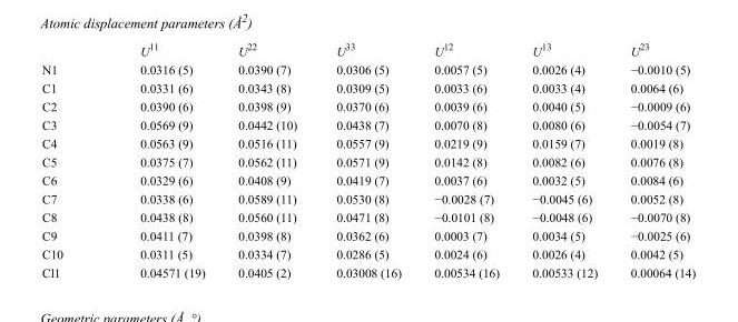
<table><thead><tr><td></td><td>U<sup>11</sup></td><td>U<sup>22</sup></td><td>U<sup>33</sup></td><td>U<sup>12</sup></td><td>U<sup>13</sup></td><td>U<sup>23</sup></td></tr></thead><tbody><tr><td>N1</td><td>0.0316 (5)</td><td>0.0390 (7)</td><td>0.0306 (5)</td><td>0.0057 (5)</td><td>0.0026 (4)</td><td>−0.0010 (5)</td></tr><tr><td>C1</td><td>0.0331 (6)</td><td>0.0343 (8)</td><td>0.0309 (5)</td><td>0.0033 (6)</td><td>0.0033 (4)</td><td>0.0064 (6)</td></tr><tr><td>C2</td><td>0.0390 (6)</td><td>0.0398 (9)</td><td>0.0370 (6)</td><td>0.0039 (6)</td><td>0.0040 (5)</td><td>−0.0009 (6)</td></tr><tr><td>C3</td><td>0.0569 (9)</td><td>0.0442 (10)</td><td>0.0438 (7)</td><td>0.0070 (8)</td><td>0.0080 (6)</td><td>−0.0054 (7)</td></tr><tr><td>C4</td><td>0.0563 (9)</td><td>0.0516 (11)</td><td>0.0557 (9)</td><td>0.0219 (9)</td><td>0.0159 (7)</td><td>0.0019 (8)</td></tr><tr><td>C5</td><td>0.0375 (7)</td><td>0.0562 (11)</td><td>0.0571 (9)</td><td>0.0142 (8)</td><td>0.0082 (6)</td><td>0.0076 (8)</td></tr><tr><td>C6</td><td>0.0329 (6)</td><td>0.0408 (9)</td><td>0.0419 (7)</td><td>0.0037 (6)</td><td>0.0032 (5)</td><td>0.0084 (6)</td></tr><tr><td>C7</td><td>0.0338 (6)</td><td>0.0589 (11)</td><td>0.0530 (8)</td><td>−0.0028 (7)</td><td>−0.0045 (6)</td><td>0.0052 (8)</td></tr><tr><td>C8</td><td>0.0438 (8)</td><td>0.0560 (11)</td><td>0.0471 (8)</td><td>−0.0101 (8)</td><td>−0.0048 (6)</td><td>−0.0070 (8)</td></tr><tr><td>C9</td><td>0.0411 (7)</td><td>0.0398 (8)</td><td>0.0362 (6)</td><td>0.0003 (7)</td><td>0.0034 (5)</td><td>−0.0025 (6)</td></tr><tr><td>C10</td><td>0.0311 (5)</td><td>0.0334 (7)</td><td>0.0286 (5)</td><td>0.0024 (6)</td><td>0.0026 (4)</td><td>0.0042 (5)</td></tr><tr><td>Cl1</td><td>0.04571 (19)</td><td>0.0405 (2)</td><td>0.03008 (16)</td><td>0.00534 (16)</td><td>0.00533 (12)</td><td>0.00064 (14)</td></tr></tbody></table>